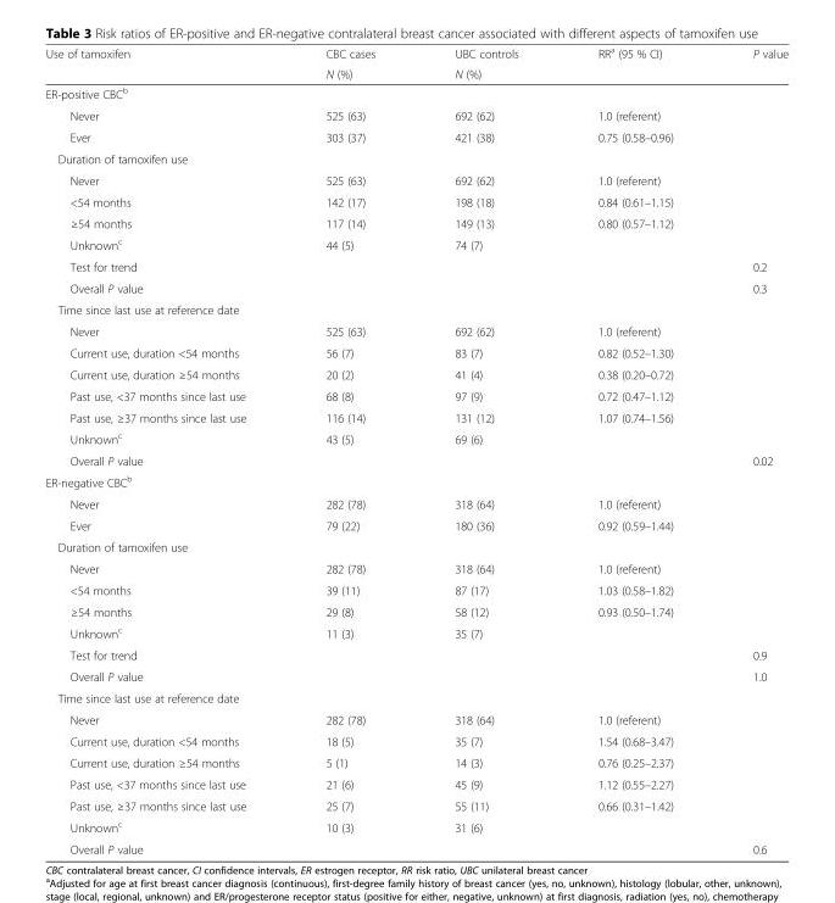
<table><thead><tr><td rowspan="2">Use of tamoxifen</td><td rowspan="2">CBC cases N (%)</td><td rowspan="2">UBC controls N (%)</td><td rowspan="2">RR<sup>a</sup> (95 % CI)</td><td rowspan="2">P value</td></tr><tr></tr></thead><tbody><tr><td colspan="5">ER-positive CBC<sup>b</sup></td></tr><tr><td>Never</td><td>525 (63)</td><td>692 (62)</td><td>1.0 (referent)</td><td></td></tr><tr><td>Ever</td><td>303 (37)</td><td>421 (38)</td><td>0.75 (0.58–0.96)</td><td></td></tr><tr><td colspan="5">Duration of tamoxifen use</td></tr><tr><td>Never</td><td>525 (63)</td><td>692 (62)</td><td>1.0 (referent)</td><td></td></tr><tr><td>&lt;54 months</td><td>142 (17)</td><td>198 (18)</td><td>0.84 (0.61–1.15)</td><td></td></tr><tr><td>≥54 months</td><td>117 (14)</td><td>149 (13)</td><td>0.80 (0.57–1.12)</td><td></td></tr><tr><td>Unknown<sup>c</sup></td><td>44 (5)</td><td>74 (7)</td><td></td><td></td></tr><tr><td>Test for trend</td><td></td><td></td><td></td><td>0.2</td></tr><tr><td>Overall P value</td><td></td><td></td><td></td><td>0.3</td></tr><tr><td colspan="5">Time since last use at reference date</td></tr><tr><td>Never</td><td>525 (63)</td><td>692 (62)</td><td>1.0 (referent)</td><td></td></tr><tr><td>Current use, duration &lt;54 months</td><td>56 (7)</td><td>83 (7)</td><td>0.82 (0.52–1.30)</td><td></td></tr><tr><td>Current use, duration ≥54 months</td><td>20 (2)</td><td>41 (4)</td><td>0.38 (0.20–0.72)</td><td></td></tr><tr><td>Past use, &lt;37 months since last use</td><td>68 (8)</td><td>97 (9)</td><td>0.72 (0.47–1.12)</td><td></td></tr><tr><td>Past use, ≥37 months since last use</td><td>116 (14)</td><td>131 (12)</td><td>1.07 (0.74–1.56)</td><td></td></tr><tr><td>Unknown<sup>c</sup></td><td>43 (5)</td><td>69 (6)</td><td></td><td></td></tr><tr><td>Overall P value</td><td></td><td></td><td></td><td>0.02</td></tr><tr><td colspan="5">ER-negative CBC<sup>b</sup></td></tr><tr><td>Never</td><td>282 (78)</td><td>318 (64)</td><td>1.0 (referent)</td><td></td></tr><tr><td>Ever</td><td>79 (22)</td><td>180 (36)</td><td>0.92 (0.59–1.44)</td><td></td></tr><tr><td colspan="5">Duration of tamoxifen use</td></tr><tr><td>Never</td><td>282 (78)</td><td>318 (64)</td><td>1.0 (referent)</td><td></td></tr><tr><td>&lt;54 months</td><td>39 (11)</td><td>87 (17)</td><td>1.03 (0.58–1.82)</td><td></td></tr><tr><td>≥54 months</td><td>29 (8)</td><td>58 (12)</td><td>0.93 (0.50–1.74)</td><td></td></tr><tr><td>Unknown<sup>c</sup></td><td>11 (3)</td><td>35 (7)</td><td></td><td></td></tr><tr><td>Test for trend</td><td></td><td></td><td></td><td>0.9</td></tr><tr><td>Overall P value</td><td></td><td></td><td></td><td>1.0</td></tr><tr><td colspan="5">Time since last use at reference date</td></tr><tr><td>Never</td><td>282 (78)</td><td>318 (64)</td><td>1.0 (referent)</td><td></td></tr><tr><td>Current use, duration &lt;54 months</td><td>18 (5)</td><td>35 (7)</td><td>1.54 (0.68–3.47)</td><td></td></tr><tr><td>Current use, duration ≥54 months</td><td>5 (1)</td><td>14 (3)</td><td>0.76 (0.25–2.37)</td><td></td></tr><tr><td>Past use, &lt;37 months since last use</td><td>21 (6)</td><td>45 (9)</td><td>1.12 (0.55–2.27)</td><td></td></tr><tr><td>Past use, ≥37 months since last use</td><td>25 (7)</td><td>55 (11)</td><td>0.66 (0.31–1.42)</td><td></td></tr><tr><td>Unknown<sup>c</sup></td><td>10 (3)</td><td>31 (6)</td><td></td><td></td></tr><tr><td>Overall P value</td><td></td><td></td><td></td><td>0.6</td></tr></tbody></table>